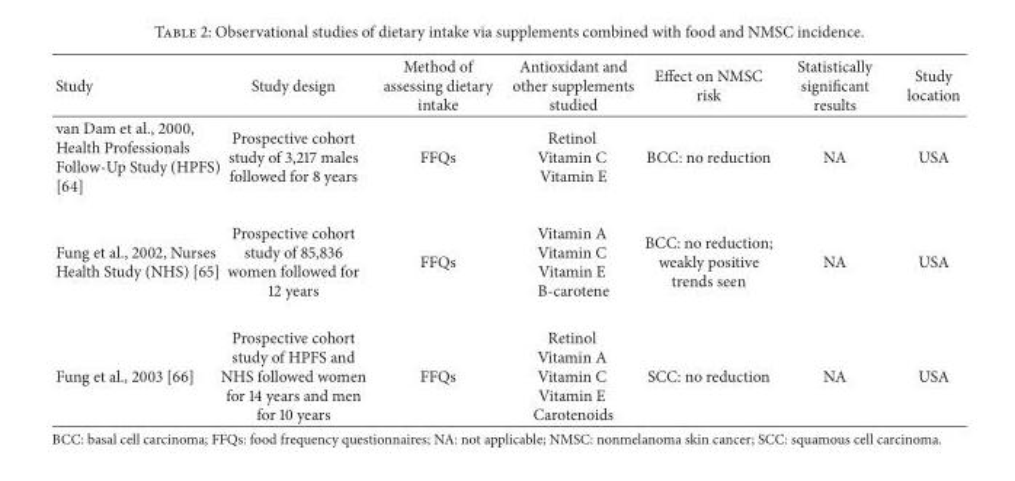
<table><thead><tr><td>Study</td><td>Study design</td><td>Method of assessing dietary intake</td><td>Antioxidant and other supplements studied</td><td>Effect on NMSC risk</td><td>Statistically significant results</td><td>Study location</td></tr></thead><tbody><tr><td>van Dam et al., 2000, Health Professionals Follow-Up Study (HPFS) [64]</td><td>Prospective cohort study of 3,217 males followed for 8 years</td><td>FFQs</td><td>Retinol Vitamin C Vitamin E</td><td>BCC: no reduction</td><td>NA</td><td>USA</td></tr><tr><td>Fung et al., 2002, Nurses Health Study (NHS) [65]</td><td>Prospective cohort study of 85,836 women followed for 12 years</td><td>FFQs</td><td>Vitamin A Vitamin C Vitamin E B-carotene</td><td>BCC: no reduction; weakly positive trends seen</td><td>NA</td><td>USA</td></tr><tr><td>Fung et al., 2003 [66]</td><td>Prospective cohort study of HPFS and NHS followed women for 14 years and men for 10 years</td><td>FFQs</td><td>Retinol Vitamin A Vitamin C Vitamin E Carotenoids</td><td>SCC: no reduction</td><td>NA</td><td>USA</td></tr></tbody></table>